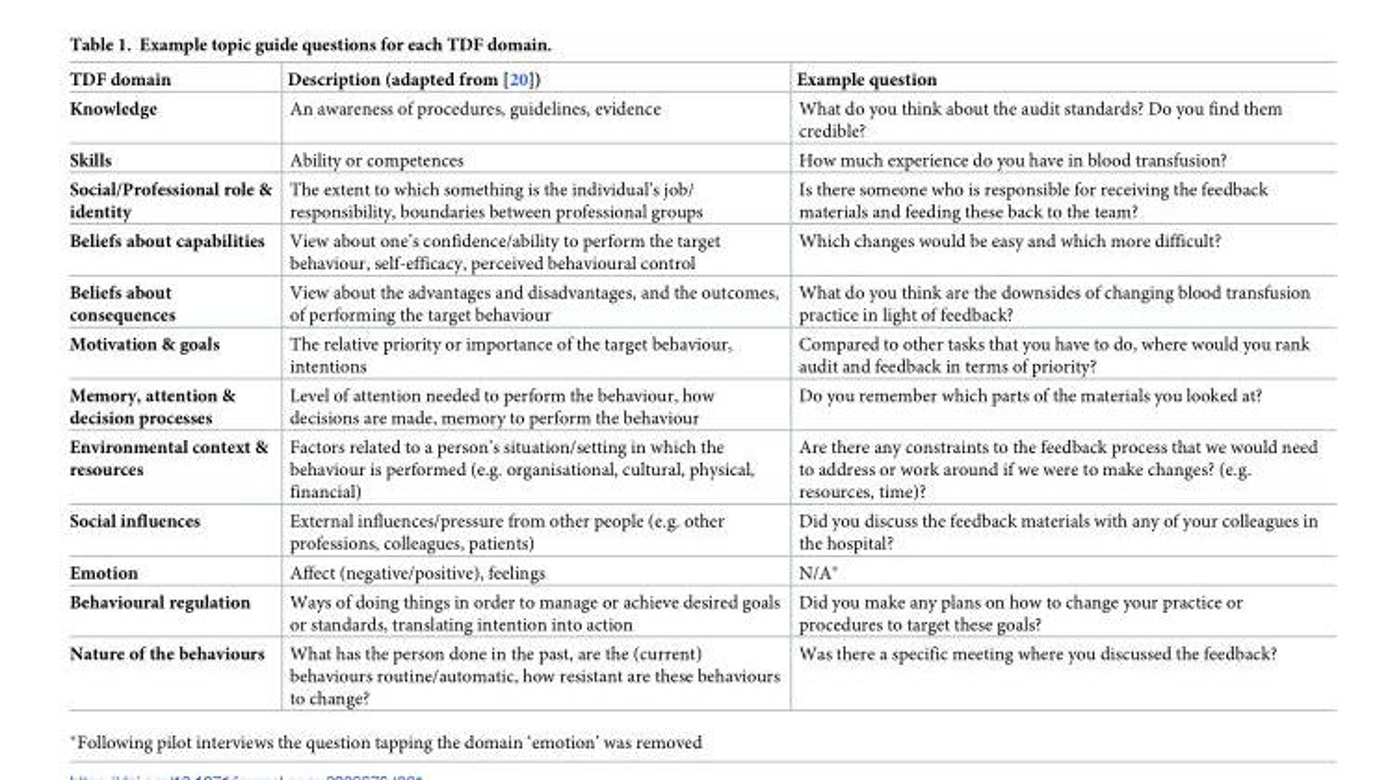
<table><thead><tr><td>TDF domain</td><td>Description (adapted from [20])</td><td>Example question</td></tr></thead><tbody><tr><td>Knowledge</td><td>An awareness of procedures, guidelines, evidence</td><td>What do you think about the audit standards? Do you find them credible?</td></tr><tr><td>Skills</td><td>Ability or competences</td><td>How much experience do you have in blood transfusion?</td></tr><tr><td>Social/Professional role &amp; identity</td><td>The extent to which something is the individual’s job/ responsibility, boundaries between professional groups</td><td>Is there someone who is responsible for receiving the feedback materials and feeding these back to the team?</td></tr><tr><td>Beliefs about capabilities</td><td>View about one’s confidence/ability to perform the target behaviour, self-efficacy, perceived behavioural control</td><td>Which changes would be easy and which more difficult?</td></tr><tr><td>Beliefs about consequences</td><td>View about the advantages and disadvantages, and the outcomes, of performing the target behaviour</td><td>What do you think are the downsides of changing blood transfusion practice in light of feedback?</td></tr><tr><td>Motivation &amp; goals</td><td>The relative priority or importance of the target behaviour, intentions</td><td>Compared to other tasks that you have to do, where would you rank audit and feedback in terms of priority?</td></tr><tr><td>Memory, attention &amp; decision processes</td><td>Level of attention needed to perform the behaviour, how decisions are made, memory to perform the behaviour</td><td>Do you remember which parts of the materials you looked at?</td></tr><tr><td>Environmental context &amp; resources</td><td>Factors related to a person’s situation/setting in which the behaviour is performed (e.g. organisational, cultural, physical, financial)</td><td>Are there any constraints to the feedback process that we would need to address or work around if we were to make changes? (e.g. resources, time)?</td></tr><tr><td>Social influences</td><td>External influences/pressure from other people (e.g. other professions, colleagues, patients)</td><td>Did you discuss the feedback materials with any of your colleagues in the hospital?</td></tr><tr><td>Emotion</td><td>Affect (negative/positive), feelings</td><td>N/A*</td></tr><tr><td>Behavioural regulation</td><td>Ways of doing things in order to manage or achieve desired goals or standards, translating intention into action</td><td>Did you make any plans on how to change your practice or procedures to target these goals?</td></tr><tr><td>Nature of the behaviours</td><td>What has the person done in the past, are the (current) behaviours routine/automatic, how resistant are these behaviours to change?</td><td>Was there a specific meeting where you discussed the feedback?</td></tr></tbody></table>